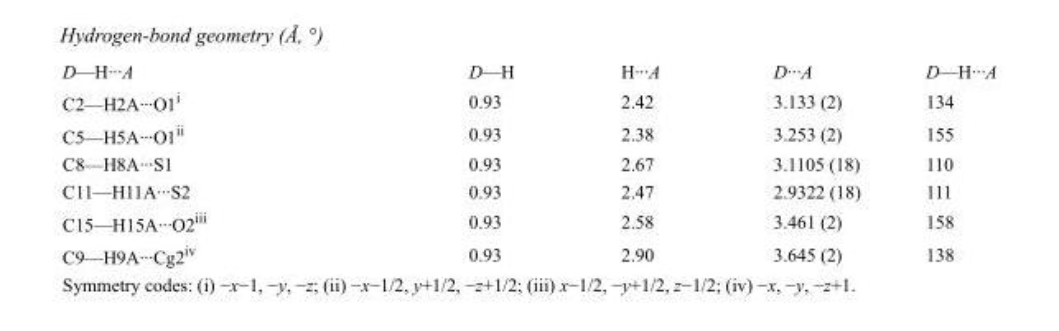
<table><tbody><tr><td>D—H···A</td><td>D—H</td><td>H···A</td><td>D···A</td><td>D—H···A</td></tr><tr><td>C2—H2A···O1<sup>i</sup></td><td>0.93</td><td>2.42</td><td>3.133 (2)</td><td>134</td></tr><tr><td>C5—H5A···O1<sup>ii</sup></td><td>0.93</td><td>2.38</td><td>3.253 (2)</td><td>155</td></tr><tr><td>C8—H8A···S1</td><td>0.93</td><td>2.67</td><td>3.1105 (18)</td><td>110</td></tr><tr><td>C11—H11A···S2</td><td>0.93</td><td>2.47</td><td>2.9322 (18)</td><td>111</td></tr><tr><td>C15—H15A···O2<sup>iii</sup></td><td>0.93</td><td>2.58</td><td>3.461 (2)</td><td>158</td></tr><tr><td>C9—H9A···Cg2<sup>iv</sup></td><td>0.93</td><td>2.90</td><td>3.645 (2)</td><td>138</td></tr></tbody></table>